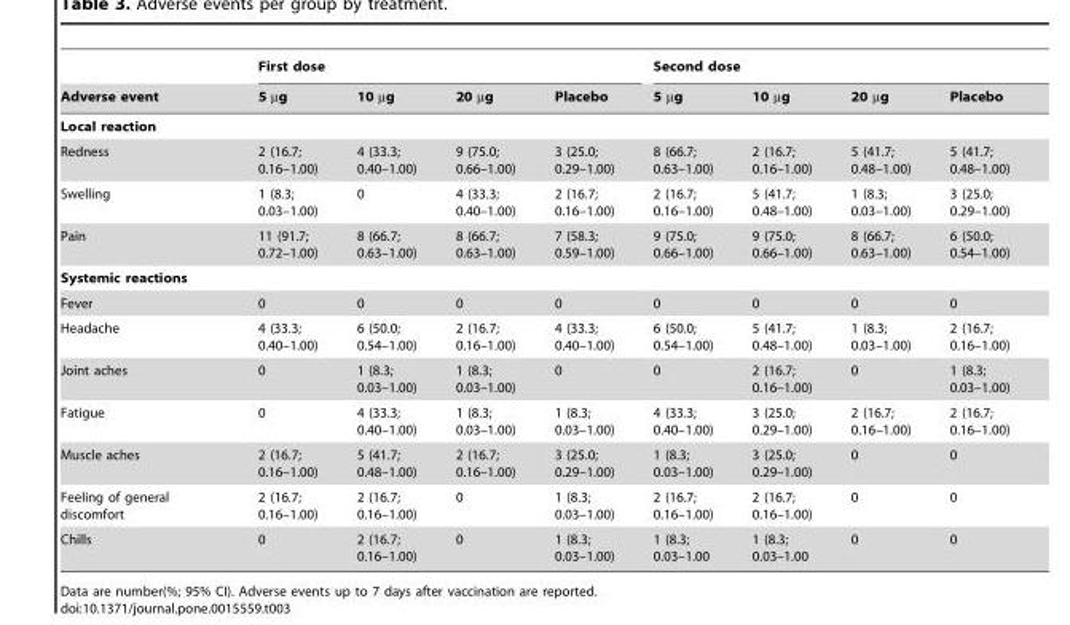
<table><thead><tr><td rowspan="2">Adverse event</td><td colspan="4">First dose</td><td colspan="4">Second dose</td></tr><tr><td>5 µg</td><td>10 µg</td><td>20 µg</td><td>Placebo</td><td>5 µg</td><td>10 µg</td><td>20 µg</td><td>Placebo</td></tr></thead><tbody><tr><td colspan="9">Local reaction</td></tr><tr><td>Redness</td><td>2 (16.7; 0.16–1.00)</td><td>4 (33.3; 0.40–1.00)</td><td>9 (75.0; 0.66–1.00)</td><td>3 (25.0; 0.29–1.00)</td><td>8 (66.7; 0.63–1.00)</td><td>2 (16.7; 0.16–1.00)</td><td>5 (41.7; 0.48–1.00)</td><td>5 (41.7; 0.48–1.00)</td></tr><tr><td>Swelling</td><td>1 (8.3; 0.03–1.00)</td><td>0</td><td>4 (33.3; 0.40–1.00)</td><td>2 (16.7; 0.16–1.00)</td><td>2 (16.7; 0.16–1.00)</td><td>5 (41.7; 0.48–1.00)</td><td>1 (8.3; 0.03–1.00)</td><td>3 (25.0; 0.29–1.00)</td></tr><tr><td>Pain</td><td>11 (91.7; 0.72–1.00)</td><td>8 (66.7; 0.63–1.00)</td><td>8 (66.7; 0.63–1.00)</td><td>7 (58.3; 0.59–1.00)</td><td>9 (75.0; 0.66–1.00)</td><td>9 (75.0; 0.66–1.00)</td><td>8 (66.7; 0.63–1.00)</td><td>6 (50.0; 0.54–1.00)</td></tr><tr><td colspan="9">Systemic reactions</td></tr><tr><td>Fever</td><td>0</td><td>0</td><td>0</td><td>0</td><td>0</td><td>0</td><td>0</td><td>0</td></tr><tr><td>Headache</td><td>4 (33.3; 0.40–1.00)</td><td>6 (50.0; 0.54–1.00)</td><td>2 (16.7; 0.16–1.00)</td><td>4 (33.3; 0.40–1.00)</td><td>6 (50.0; 0.54–1.00)</td><td>5 (41.7; 0.48–1.00)</td><td>1 (8.3; 0.03–1.00)</td><td>2 (16.7; 0.16–1.00)</td></tr><tr><td>Joint aches</td><td>0</td><td>1 (8.3; 0.03–1.00)</td><td>1 (8.3; 0.03–1.00)</td><td>0</td><td>0</td><td>2 (16.7; 0.16–1.00)</td><td>0</td><td>1 (8.3; 0.03–1.00)</td></tr><tr><td>Fatigue</td><td>0</td><td>4 (33.3; 0.40–1.00)</td><td>1 (8.3; 0.03–1.00)</td><td>1 (8.3; 0.03–1.00)</td><td>4 (33.3; 0.40–1.00)</td><td>3 (25.0; 0.29–1.00)</td><td>2 (16.7; 0.16–1.00)</td><td>2 (16.7; 0.16–1.00)</td></tr><tr><td>Muscle aches</td><td>2 (16.7; 0.16–1.00)</td><td>5 (41.7; 0.48–1.00)</td><td>2 (16.7; 0.16–1.00)</td><td>3 (25.0; 0.29–1.00)</td><td>1 (8.3; 0.03–1.00)</td><td>3 (25.0; 0.29–1.00)</td><td>0</td><td>0</td></tr><tr><td>Feeling of general discomfort</td><td>2 (16.7; 0.16–1.00)</td><td>2 (16.7; 0.16–1.00)</td><td>0</td><td>1 (8.3; 0.03–1.00)</td><td>2 (16.7; 0.16–1.00)</td><td>2 (16.7; 0.16–1.00)</td><td>0</td><td>0</td></tr><tr><td>Chills</td><td>0</td><td>2 (16.7; 0.16–1.00)</td><td>0</td><td>1 (8.3; 0.03–1.00)</td><td>1 (8.3; 0.03–1.00</td><td>1 (8.3; 0.03–1.00</td><td>0</td><td>0</td></tr></tbody></table>